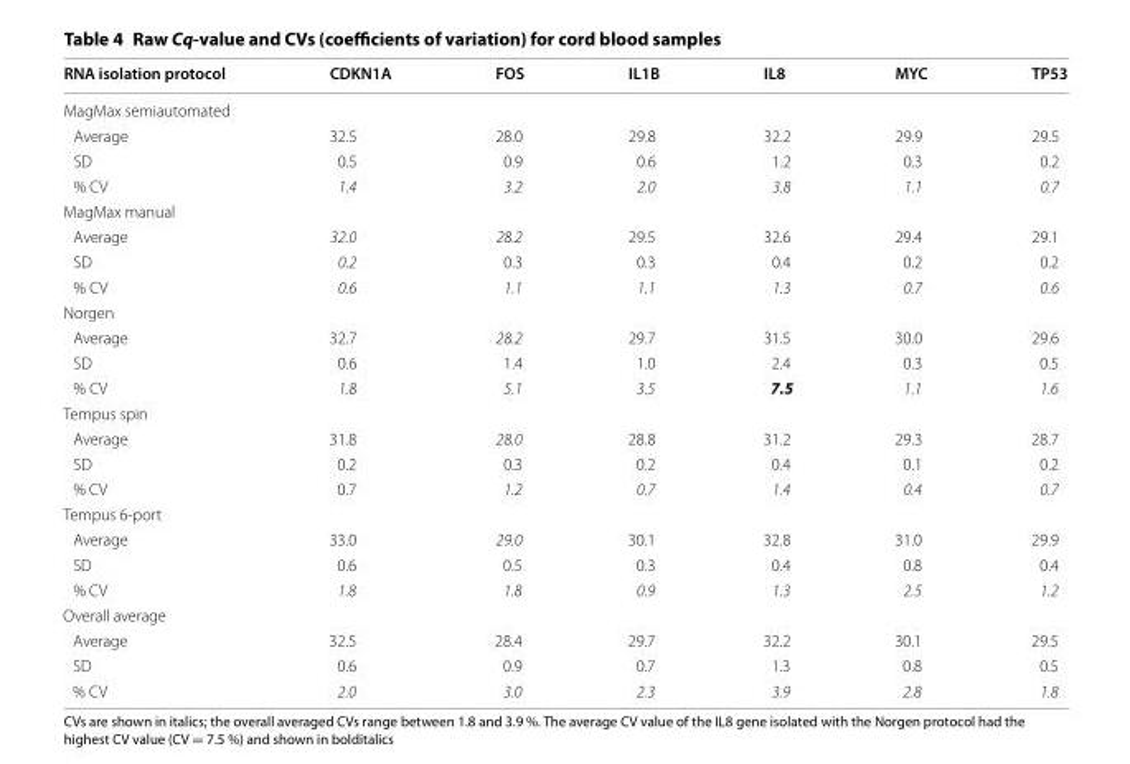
<table><thead><tr><td>RNA isolation protocol</td><td>CDKN1A</td><td>FOS</td><td>IL1B</td><td>IL8</td><td>MYC</td><td>TP53</td></tr></thead><tbody><tr><td colspan="7">MagMax semiautomated</td></tr><tr><td>Average</td><td>32.5</td><td>28.0</td><td>29.8</td><td>32.2</td><td>29.9</td><td>29.5</td></tr><tr><td>SD</td><td>0.5</td><td>0.9</td><td>0.6</td><td>1.2</td><td>0.3</td><td>0.2</td></tr><tr><td>% CV</td><td>1.4</td><td>3.2</td><td>2.0</td><td>3.8</td><td>1.1</td><td>0.7</td></tr><tr><td colspan="7">MagMax manual</td></tr><tr><td>Average</td><td>32.0</td><td>28.2</td><td>29.5</td><td>32.6</td><td>29.4</td><td>29.1</td></tr><tr><td>SD</td><td>0.2</td><td>0.3</td><td>0.3</td><td>0.4</td><td>0.2</td><td>0.2</td></tr><tr><td>% CV</td><td>0.6</td><td>1.1</td><td>1.1</td><td>1.3</td><td>0.7</td><td>0.6</td></tr><tr><td colspan="7">Norgen</td></tr><tr><td>Average</td><td>32.7</td><td>28.2</td><td>29.7</td><td>31.5</td><td>30.0</td><td>29.6</td></tr><tr><td>SD</td><td>0.6</td><td>1.4</td><td>1.0</td><td>2.4</td><td>0.3</td><td>0.5</td></tr><tr><td>% CV</td><td>1.8</td><td>5.1</td><td>3.5</td><td>7.5</td><td>1.1</td><td>1.6</td></tr><tr><td colspan="7">Tempus spin</td></tr><tr><td>Average</td><td>31.8</td><td>28.0</td><td>28.8</td><td>31.2</td><td>29.3</td><td>28.7</td></tr><tr><td>SD</td><td>0.2</td><td>0.3</td><td>0.2</td><td>0.4</td><td>0.1</td><td>0.2</td></tr><tr><td>% CV</td><td>0.7</td><td>1.2</td><td>0.7</td><td>1.4</td><td>0.4</td><td>0.7</td></tr><tr><td colspan="7">Tempus 6-port</td></tr><tr><td>Average</td><td>33.0</td><td>29.0</td><td>30.1</td><td>32.8</td><td>31.0</td><td>29.9</td></tr><tr><td>SD</td><td>0.6</td><td>0.5</td><td>0.3</td><td>0.4</td><td>0.8</td><td>0.4</td></tr><tr><td>% CV</td><td>1.8</td><td>1.8</td><td>0.9</td><td>1.3</td><td>2.5</td><td>1.2</td></tr><tr><td colspan="7">Overall average</td></tr><tr><td>Average</td><td>32.5</td><td>28.4</td><td>29.7</td><td>32.2</td><td>30.1</td><td>29.5</td></tr><tr><td>SD</td><td>0.6</td><td>0.9</td><td>0.7</td><td>1.3</td><td>0.8</td><td>0.5</td></tr><tr><td>% CV</td><td>2.0</td><td>3.0</td><td>2.3</td><td>3.9</td><td>2.8</td><td>1.8</td></tr></tbody></table>